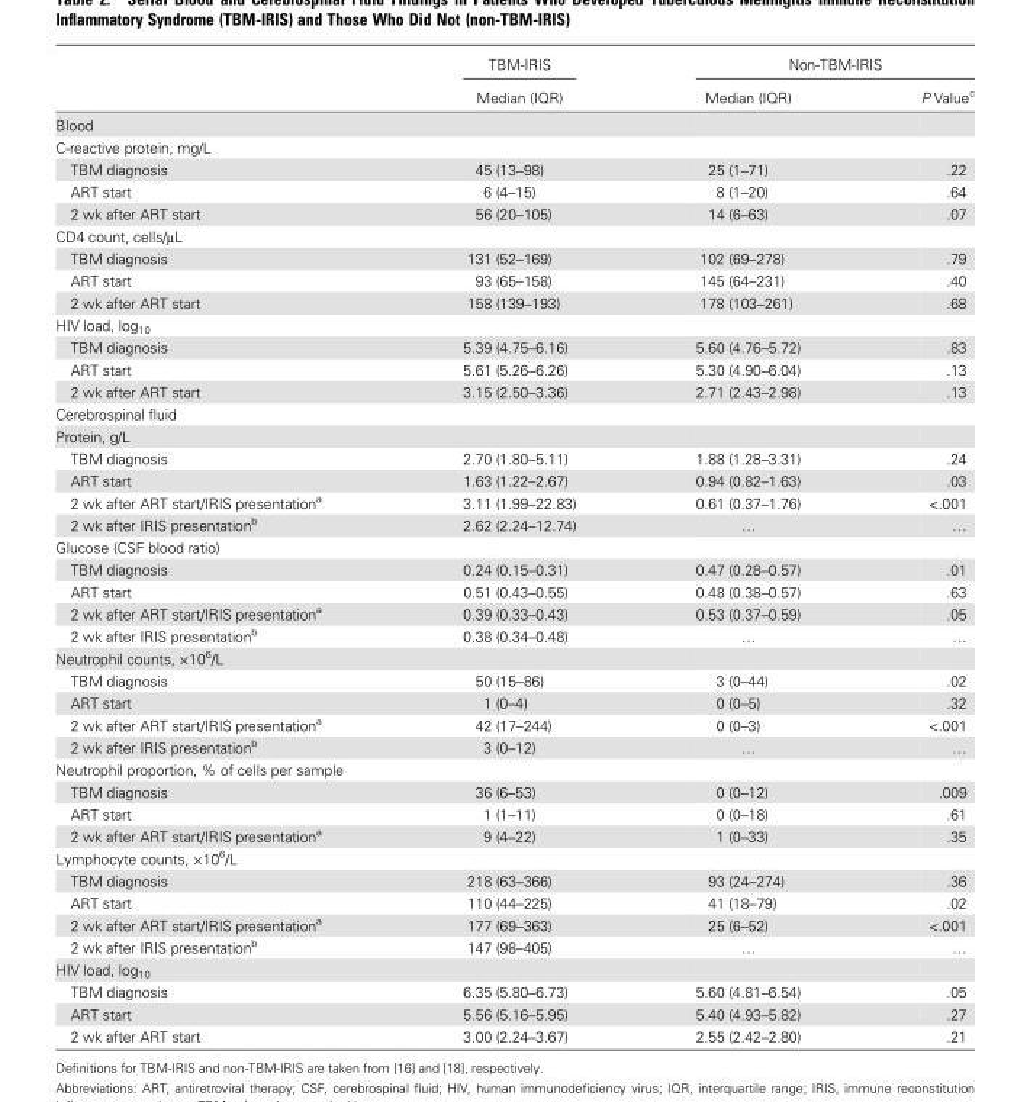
<table><thead><tr><td rowspan="2"></td><td rowspan="2">TBM-IRIS Median (IQR)</td><td colspan="2">Non-TBM-IRIS</td></tr><tr><td>Median (IQR)</td><td>P Value<sup>c</sup></td></tr></thead><tbody><tr><td colspan="4">Blood</td></tr><tr><td colspan="4">C-reactive protein, mg/L</td></tr><tr><td>TBM diagnosis</td><td>45 (13–98)</td><td>25 (1–71)</td><td>.22</td></tr><tr><td>ART start</td><td>6 (4–15)</td><td>8 (1–20)</td><td>.64</td></tr><tr><td>2 wk after ART start</td><td>56 (20–105)</td><td>14 (6–63)</td><td>.07</td></tr><tr><td colspan="4">CD4 count, cells/μL</td></tr><tr><td>TBM diagnosis</td><td>131 (52–169)</td><td>102 (69–278)</td><td>.79</td></tr><tr><td>ART start</td><td>93 (65–158)</td><td>145 (64–231)</td><td>.40</td></tr><tr><td>2 wk after ART start</td><td>158 (139–193)</td><td>178 (103–261)</td><td>.68</td></tr><tr><td colspan="4">HIV load, log<sub>10</sub></td></tr><tr><td>TBM diagnosis</td><td>5.39 (4.75–6.16)</td><td>5.60 (4.76–5.72)</td><td>.83</td></tr><tr><td>ART start</td><td>5.61 (5.26–6.26)</td><td>5.30 (4.90–6.04)</td><td>.13</td></tr><tr><td>2 wk after ART start</td><td>3.15 (2.50–3.36)</td><td>2.71 (2.43–2.98)</td><td>.13</td></tr><tr><td colspan="4">Cerebrospinal fluid</td></tr><tr><td colspan="4">Protein, g/L</td></tr><tr><td>TBM diagnosis</td><td>2.70 (1.80–5.11)</td><td>1.88 (1.28–3.31)</td><td>.24</td></tr><tr><td>ART start</td><td>1.63 (1.22–2.67)</td><td>0.94 (0.82–1.63)</td><td>.03</td></tr><tr><td>2 wk after ART start/IRIS presentation<sup>a</sup></td><td>3.11 (1.99–22.83)</td><td>0.61 (0.37–1.76)</td><td>&lt;.001</td></tr><tr><td>2 wk after IRIS presentation<sup>b</sup></td><td>2.62 (2.24–12.74)</td><td>…</td><td>…</td></tr><tr><td colspan="4">Glucose (CSF blood ratio)</td></tr><tr><td>TBM diagnosis</td><td>0.24 (0.15–0.31)</td><td>0.47 (0.28–0.57)</td><td>.01</td></tr><tr><td>ART start</td><td>0.51 (0.43–0.55)</td><td>0.48 (0.38–0.57)</td><td>.63</td></tr><tr><td>2 wk after ART start/IRIS presentation<sup>a</sup></td><td>0.39 (0.33–0.43)</td><td>0.53 (0.37–0.59)</td><td>.05</td></tr><tr><td>2 wk after IRIS presentation<sup>b</sup></td><td>0.38 (0.34–0.48)</td><td>…</td><td>…</td></tr><tr><td colspan="4">Neutrophil counts, ×10<sup>6</sup>/L</td></tr><tr><td>TBM diagnosis</td><td>50 (15–86)</td><td>3 (0–44)</td><td>.02</td></tr><tr><td>ART start</td><td>1 (0–4)</td><td>0 (0–5)</td><td>.32</td></tr><tr><td>2 wk after ART start/IRIS presentation<sup>a</sup></td><td>42 (17–244)</td><td>0 (0–3)</td><td>&lt;.001</td></tr><tr><td>2 wk after IRIS presentation<sup>b</sup></td><td>3 (0–12)</td><td>…</td><td>…</td></tr><tr><td colspan="4">Neutrophil proportion, % of cells per sample</td></tr><tr><td>TBM diagnosis</td><td>36 (6–53)</td><td>0 (0–12)</td><td>.009</td></tr><tr><td>ART start</td><td>1 (1–11)</td><td>0 (0–18)</td><td>.61</td></tr><tr><td>2 wk after ART start/IRIS presentation<sup>a</sup></td><td>9 (4–22)</td><td>1 (0–33)</td><td>.35</td></tr><tr><td colspan="4">Lymphocyte counts, ×10<sup>6</sup>/L</td></tr><tr><td>TBM diagnosis</td><td>218 (63–366)</td><td>93 (24–274)</td><td>.36</td></tr><tr><td>ART start</td><td>110 (44–225)</td><td>41 (18–79)</td><td>.02</td></tr><tr><td>2 wk after ART start/IRIS presentation<sup>a</sup></td><td>177 (69–363)</td><td>25 (6–52)</td><td>&lt;.001</td></tr><tr><td>2 wk after IRIS presentation<sup>b</sup></td><td>147 (98–405)</td><td>…</td><td>…</td></tr><tr><td colspan="4">HIV load, log<sub>10</sub></td></tr><tr><td>TBM diagnosis</td><td>6.35 (5.80–6.73)</td><td>5.60 (4.81–6.54)</td><td>.05</td></tr><tr><td>ART start</td><td>5.56 (5.16–5.95)</td><td>5.40 (4.93–5.82)</td><td>.27</td></tr><tr><td>2 wk after ART start</td><td>3.00 (2.24–3.67)</td><td>2.55 (2.42–2.80)</td><td>.21</td></tr></tbody></table>